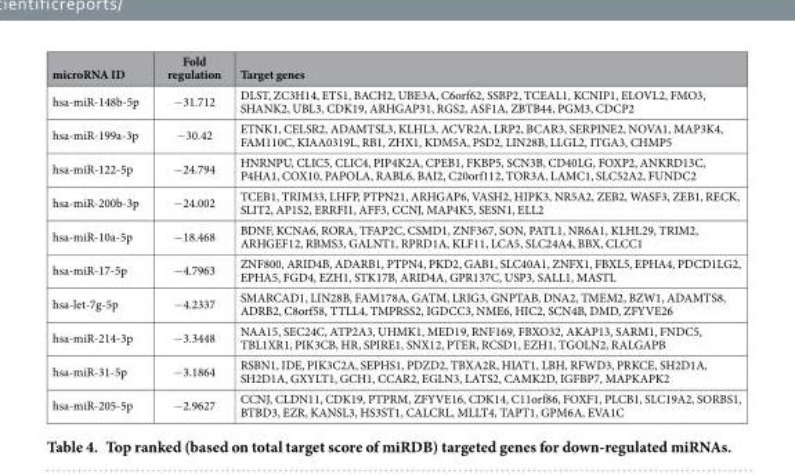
<table><thead><tr><td>microRNA ID</td><td>Fold regulation</td><td>Target genes</td></tr></thead><tbody><tr><td>hsa-miR-148b-5p</td><td>−31.712</td><td>DLST, ZC3H14, ETS1, BACH2, UBE3A, C6orf62, SSBP2, TCEAL1, KCNIP1, ELOVL2, FMO3, SHANK2, UBL3, CDK19, ARHGAP31, RGS2, ASF1A, ZBTB44, PGM3, CDCP2</td></tr><tr><td>hsa-miR-199a-3p</td><td>−30.42</td><td>ETNK1, CELSR2, ADAMTSL3, KLHL3, ACVR2A, LRP2, BCAR3, SERPINE2, NOVA1, MAP3K4, FAM110C, KIAA0319L, RB1, ZHX1, KDM5A, PSD2, LIN28B, LLGL2, ITGA3, CHMP5</td></tr><tr><td>hsa-miR-122-5p</td><td>−24.794</td><td>HNRNPU, CLIC5, CLIC4, PIP4K2A, CPEB1, FKBP5, SCN3B, CD40LG, FOXP2, ANKRD13C, P4HA1, COX10, PAPOLA, RABL6, BAI2, C20orf112, TOR3A, LAMC1, SLC52A2, FUNDC2</td></tr><tr><td>hsa-miR-200b-3p</td><td>−24.002</td><td>TCEB1, TRIM33, LHFP, PTPN21, ARHGAP6, VASH2, HIPK3, NR5A2, ZEB2, WASF3, ZEB1, RECK, SLIT2, AP1S2, ERRFI1, AFF3, CCNJ, MAP4K5, SESN1, ELL2</td></tr><tr><td>hsa-miR-10a-5p</td><td>−18.468</td><td>BDNF, KCNA6, RORA, TFAP2C, CSMD1, ZNF367, SON, PATL1, NR6A1, KLHL29, TRIM2, ARHGEF12, RBMS3, GALNT1, RPRD1A, KLF11, LCA5, SLC24A4, BBX, CLCC1</td></tr><tr><td>hsa-miR-17-5p</td><td>−4.7963</td><td>ZNF800, ARID4B, ADARB1, PTPN4, PKD2, GAB1, SLC40A1, ZNFX1, FBXL5, EPHA4, PDCD1LG2, EPHA5, FGD4, EZH1, STK17B, ARID4A, GPR137C, USP3, SALL1, MASTL</td></tr><tr><td>hsa-let-7g-5p</td><td>−4.2337</td><td>SMARCAD1, LIN28B, FAM178A, GATM, LRIG3, GNPTAB, DNA2, TMEM2, BZW1, ADAMTS8, ADRB2, C8orf58, TTLL4, TMPRSS2, IGDCC3, NME6, HIC2, SCN4B, DMD, ZFYVE26</td></tr><tr><td>hsa-miR-214-3p</td><td>−3.3448</td><td>NAA15, SEC24C, ATP2A3, UHMK1, MED19, RNF169, FBXO32, AKAP13, SARM1, FNDC5, TBL1XR1, PIK3CB, HR, SPIRE1, SNX12, PTER, RCSD1, EZH1, TGOLN2, RALGAPB</td></tr><tr><td>hsa-miR-31-5p</td><td>−3.1864</td><td>RSBN1, IDE, PIK3C2A, SEPHS1, PDZD2, TBXA2R, HIAT1, LBH, RFWD3, PRKCE, SH2D1A, SH2D1A, GXYLT1, GCH1, CCAR2, EGLN3, LATS2, CAMK2D, IGFBP7, MAPKAPK2</td></tr><tr><td>hsa-miR-205-5p</td><td>−2.9627</td><td>CCNJ, CLDN11, CDK19, PTPRM, ZFYVE16, CDK14, C11orf86, FOXF1, PLCB1, SLC19A2, SORBS1, BTBD3, EZR, KANSL3, HS3ST1, CALCRL, MLLT4, TAPT1, GPM6A, EVA1C</td></tr></tbody></table>